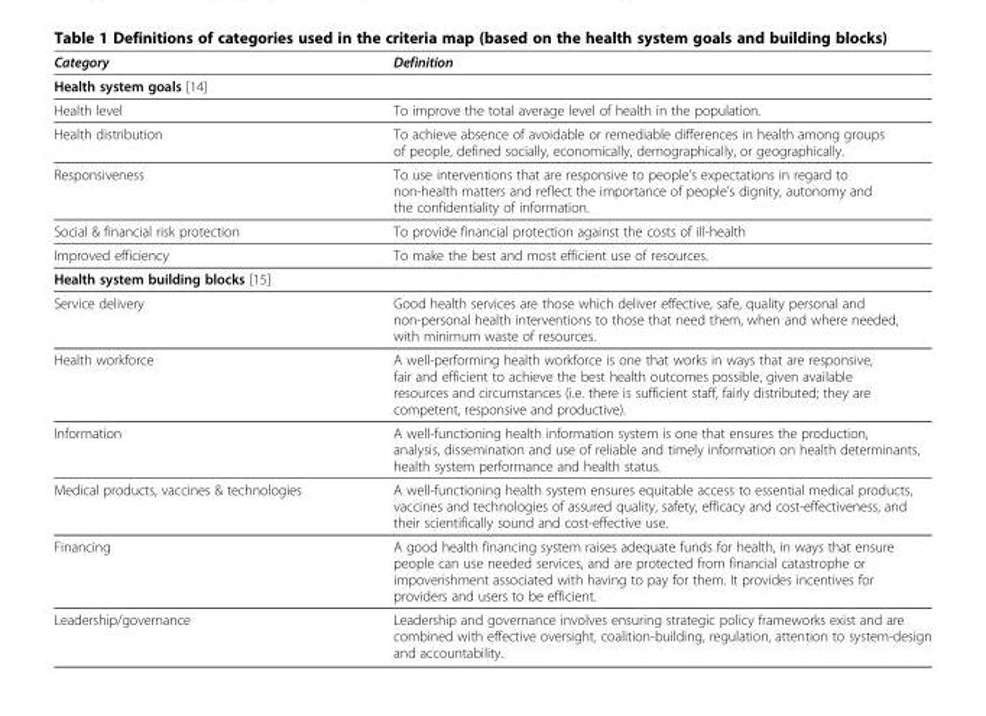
<table><thead><tr><td>Category</td><td>Definition</td></tr></thead><tbody><tr><td colspan="2">Health system goals [14]</td></tr><tr><td>Health level</td><td>To improve the total average level of health in the population.</td></tr><tr><td>Health distribution</td><td>To achieve absence of avoidable or remediable differences in health among groups of people, defined socially, economically, demographically, or geographically.</td></tr><tr><td>Responsiveness</td><td>To use interventions that are responsive to people’s expectations in regard to non-health matters and reflect the importance of people’s dignity, autonomy and the confidentiality of information.</td></tr><tr><td>Social &amp; financial risk protection</td><td>To provide financial protection against the costs of ill-health</td></tr><tr><td>Improved efficiency</td><td>To make the best and most efficient use of resources.</td></tr><tr><td colspan="2">Health system building blocks [15]</td></tr><tr><td>Service delivery</td><td>Good health services are those which deliver effective, safe, quality personal and non-personal health interventions to those that need them, when and where needed, with minimum waste of resources.</td></tr><tr><td>Health workforce</td><td>A well-performing health workforce is one that works in ways that are responsive, fair and efficient to achieve the best health outcomes possible, given available resources and circumstances (i.e. there is sufficient staff, fairly distributed; they are competent, responsive and productive).</td></tr><tr><td>Information</td><td>A well-functioning health information system is one that ensures the production, analysis, dissemination and use of reliable and timely information on health determinants, health system performance and health status.</td></tr><tr><td>Medical products, vaccines &amp; technologies</td><td>A well-functioning health system ensures equitable access to essential medical products, vaccines and technologies of assured quality, safety, efficacy and cost-effectiveness, and their scientifically sound and cost-effective use.</td></tr><tr><td>Financing</td><td>A good health financing system raises adequate funds for health, in ways that ensure people can use needed services, and are protected from financial catastrophe or impoverishment associated with having to pay for them. It provides incentives for providers and users to be efficient.</td></tr><tr><td>Leadership/governance</td><td>Leadership and governance involves ensuring strategic policy frameworks exist and are combined with effective oversight, coalition-building, regulation, attention to system-design and accountability.</td></tr></tbody></table>